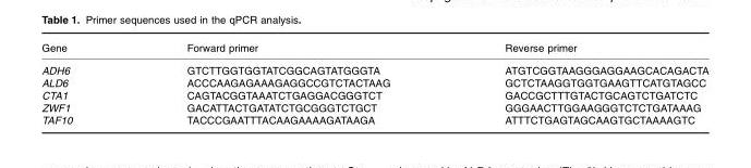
<table><thead><tr><td>Gene</td><td>Forward primer</td><td>Reverse primer</td></tr></thead><tbody><tr><td>ADH6</td><td>GTCTTGGTGGTATCGGCAGTATGGGTA</td><td>ATGTCGGTAAGGGAGGAAGCACAGACTA</td></tr><tr><td>ALD6</td><td>ACCCAAGAGAAAGAGGCCGTCTACTAAG</td><td>GCTCTAAGGTGGTGAAGTTCATGTAGCC</td></tr><tr><td>CTA1</td><td>CAGTACGGTAAATCTGAGGACGGGTCT</td><td>GACCGCTTTGTACTGCAGTCTGATCTC</td></tr><tr><td>ZWF1</td><td>GACATTACTGATATCTGCGGGTCTGCT</td><td>GGGAACTTGGAAGGGTCTCTGATAAAG</td></tr><tr><td>TAF10</td><td>TACCCGAATTTACAAGAAAAGATAAGA</td><td>ATTTCTGAGTAGCAAGTGCTAAAAGTC</td></tr></tbody></table>